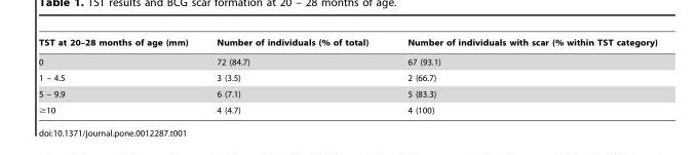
<table><thead><tr><td>TST at 20–28 months of age (mm)</td><td>Number of individuals (% of total)</td><td>Number of individuals with scar (% within TST category)</td></tr></thead><tbody><tr><td>0</td><td>72 (84.7)</td><td>67 (93.1)</td></tr><tr><td>1 – 4.5</td><td>3 (3.5)</td><td>2 (66.7)</td></tr><tr><td>5 – 9.9</td><td>6 (7.1)</td><td>5 (83.3)</td></tr><tr><td>≥10</td><td>4 (4.7)</td><td>4 (100)</td></tr></tbody></table>